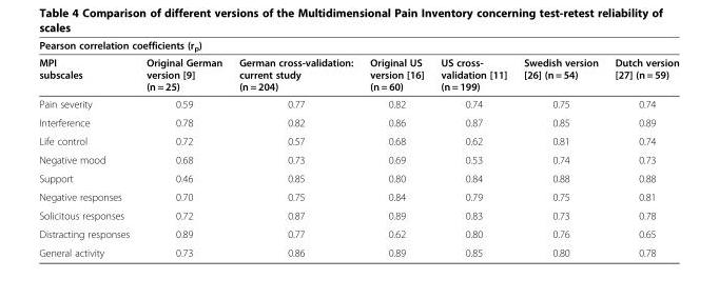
<table><thead><tr><td colspan="7">Pearson correlation coefficients (r<sub>p</sub>)</td></tr><tr><td>MPI subscales</td><td>Original German version [9] (n = 25)</td><td>German cross-validation: current study (n = 204)</td><td>Original US version [16] (n = 60)</td><td>US cross- validation [11] (n = 199)</td><td>Swedish version [26] (n = 54)</td><td>Dutch version [27] (n = 59)</td></tr></thead><tbody><tr><td>Pain severity</td><td>0.59</td><td>0.77</td><td>0.82</td><td>0.74</td><td>0.75</td><td>0.74</td></tr><tr><td>Interference</td><td>0.78</td><td>0.82</td><td>0.86</td><td>0.87</td><td>0.85</td><td>0.89</td></tr><tr><td>Life control</td><td>0.72</td><td>0.57</td><td>0.68</td><td>0.62</td><td>0.81</td><td>0.74</td></tr><tr><td>Negative mood</td><td>0.68</td><td>0.73</td><td>0.69</td><td>0.53</td><td>0.74</td><td>0.73</td></tr><tr><td>Support</td><td>0.46</td><td>0.85</td><td>0.80</td><td>0.84</td><td>0.88</td><td>0.88</td></tr><tr><td>Negative responses</td><td>0.70</td><td>0.75</td><td>0.84</td><td>0.79</td><td>0.75</td><td>0.81</td></tr><tr><td>Solicitous responses</td><td>0.72</td><td>0.87</td><td>0.89</td><td>0.83</td><td>0.73</td><td>0.78</td></tr><tr><td>Distracting responses</td><td>0.89</td><td>0.77</td><td>0.62</td><td>0.80</td><td>0.76</td><td>0.65</td></tr><tr><td>General activity</td><td>0.73</td><td>0.86</td><td>0.89</td><td>0.85</td><td>0.80</td><td>0.78</td></tr></tbody></table>